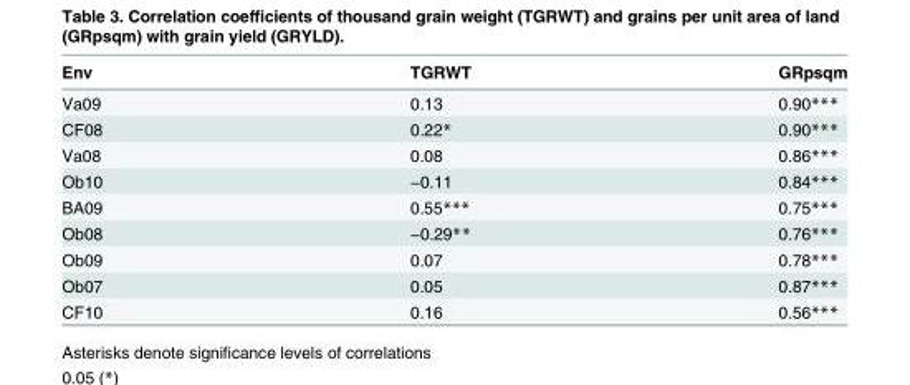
<table><thead><tr><td>Env</td><td>TGRWT</td><td>GRpsqm</td></tr></thead><tbody><tr><td>Va09</td><td>0.13</td><td>0.90***</td></tr><tr><td>CF08</td><td>0.22*</td><td>0.90***</td></tr><tr><td>Va08</td><td>0.08</td><td>0.86***</td></tr><tr><td>Ob10</td><td>−0.11</td><td>0.84***</td></tr><tr><td>BA09</td><td>0.55***</td><td>0.75***</td></tr><tr><td>Ob08</td><td>−0.29**</td><td>0.76***</td></tr><tr><td>Ob09</td><td>0.07</td><td>0.78***</td></tr><tr><td>Ob07</td><td>0.05</td><td>0.87***</td></tr><tr><td>CF10</td><td>0.16</td><td>0.56***</td></tr></tbody></table>